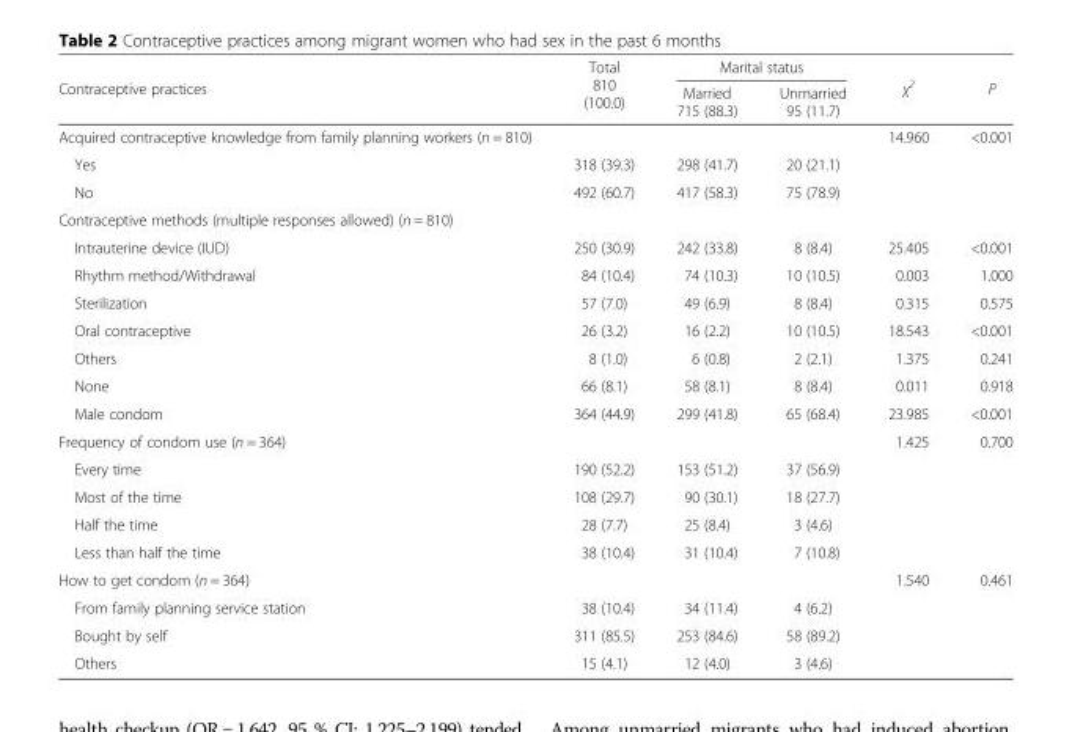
<table><thead><tr><td rowspan="2">Contraceptive practices</td><td rowspan="2">Total 810 (100.0)</td><td colspan="2">Marital status</td><td rowspan="2">χ<sup>2</sup></td><td rowspan="2">P</td></tr><tr><td>Married 715 (88.3)</td><td>Unmarried 95 (11.7)</td></tr></thead><tbody><tr><td>Acquired contraceptive knowledge from family planning workers (n = 810)</td><td></td><td></td><td></td><td>14.960</td><td>&lt;0.001</td></tr><tr><td>Yes</td><td>318 (39.3)</td><td>298 (41.7)</td><td>20 (21.1)</td><td></td><td></td></tr><tr><td>No</td><td>492 (60.7)</td><td>417 (58.3)</td><td>75 (78.9)</td><td></td><td></td></tr><tr><td colspan="6">Contraceptive methods (multiple responses allowed) (n = 810)</td></tr><tr><td>Intrauterine device (IUD)</td><td>250 (30.9)</td><td>242 (33.8)</td><td>8 (8.4)</td><td>25.405</td><td>&lt;0.001</td></tr><tr><td>Rhythm method/Withdrawal</td><td>84 (10.4)</td><td>74 (10.3)</td><td>10 (10.5)</td><td>0.003</td><td>1.000</td></tr><tr><td>Sterilization</td><td>57 (7.0)</td><td>49 (6.9)</td><td>8 (8.4)</td><td>0.315</td><td>0.575</td></tr><tr><td>Oral contraceptive</td><td>26 (3.2)</td><td>16 (2.2)</td><td>10 (10.5)</td><td>18.543</td><td>&lt;0.001</td></tr><tr><td>Others</td><td>8 (1.0)</td><td>6 (0.8)</td><td>2 (2.1)</td><td>1.375</td><td>0.241</td></tr><tr><td>None</td><td>66 (8.1)</td><td>58 (8.1)</td><td>8 (8.4)</td><td>0.011</td><td>0.918</td></tr><tr><td>Male condom</td><td>364 (44.9)</td><td>299 (41.8)</td><td>65 (68.4)</td><td>23.985</td><td>&lt;0.001</td></tr><tr><td>Frequency of condom use (n = 364)</td><td></td><td></td><td></td><td>1.425</td><td>0.700</td></tr><tr><td>Every time</td><td>190 (52.2)</td><td>153 (51.2)</td><td>37 (56.9)</td><td></td><td></td></tr><tr><td>Most of the time</td><td>108 (29.7)</td><td>90 (30.1)</td><td>18 (27.7)</td><td></td><td></td></tr><tr><td>Half the time</td><td>28 (7.7)</td><td>25 (8.4)</td><td>3 (4.6)</td><td></td><td></td></tr><tr><td>Less than half the time</td><td>38 (10.4)</td><td>31 (10.4)</td><td>7 (10.8)</td><td></td><td></td></tr><tr><td>How to get condom (n = 364)</td><td></td><td></td><td></td><td>1.540</td><td>0.461</td></tr><tr><td>From family planning service station</td><td>38 (10.4)</td><td>34 (11.4)</td><td>4 (6.2)</td><td></td><td></td></tr><tr><td>Bought by self</td><td>311 (85.5)</td><td>253 (84.6)</td><td>58 (89.2)</td><td></td><td></td></tr><tr><td>Others</td><td>15 (4.1)</td><td>12 (4.0)</td><td>3 (4.6)</td><td></td><td></td></tr></tbody></table>